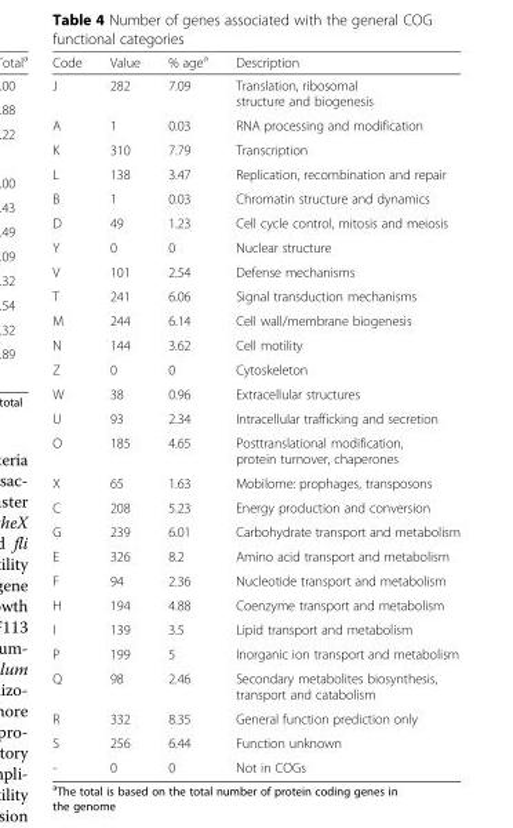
<table><thead><tr><td>Code</td><td>Value</td><td>% age<sup>a</sup></td><td>Description</td></tr></thead><tbody><tr><td>J</td><td>282</td><td>7.09</td><td>Translation, ribosomal structure and biogenesis</td></tr><tr><td>A</td><td>1</td><td>0.03</td><td>RNA processing and modification</td></tr><tr><td>K</td><td>310</td><td>7.79</td><td>Transcription</td></tr><tr><td>L</td><td>138</td><td>3.47</td><td>Replication, recombination and repair</td></tr><tr><td>B</td><td>1</td><td>0.03</td><td>Chromatin structure and dynamics</td></tr><tr><td>D</td><td>49</td><td>1.23</td><td>Cell cycle control, mitosis and meiosis</td></tr><tr><td>Y</td><td>0</td><td>0</td><td>Nuclear structure</td></tr><tr><td>V</td><td>101</td><td>2.54</td><td>Defense mechanisms</td></tr><tr><td>T</td><td>241</td><td>6.06</td><td>Signal transduction mechanisms</td></tr><tr><td>M</td><td>244</td><td>6.14</td><td>Cell wall/membrane biogenesis</td></tr><tr><td>N</td><td>144</td><td>3.62</td><td>Cell motility</td></tr><tr><td>Z</td><td>0</td><td>0</td><td>Cytoskeleton</td></tr><tr><td>W</td><td>38</td><td>0.96</td><td>Extracellular structures</td></tr><tr><td>U</td><td>93</td><td>2.34</td><td>Intracellular trafficking and secretion</td></tr><tr><td>O</td><td>185</td><td>4.65</td><td>Posttranslational modification, protein turnover, chaperones</td></tr><tr><td>X</td><td>65</td><td>1.63</td><td>Mobilome: prophages, transposons</td></tr><tr><td>C</td><td>208</td><td>5.23</td><td>Energy production and conversion</td></tr><tr><td>G</td><td>239</td><td>6.01</td><td>Carbohydrate transport and metabolism</td></tr><tr><td>E</td><td>326</td><td>8.2</td><td>Amino acid transport and metabolism</td></tr><tr><td>F</td><td>94</td><td>2.36</td><td>Nucleotide transport and metabolism</td></tr><tr><td>H</td><td>194</td><td>4.88</td><td>Coenzyme transport and metabolism</td></tr><tr><td>I</td><td>139</td><td>3.5</td><td>Lipid transport and metabolism</td></tr><tr><td>P</td><td>199</td><td>5</td><td>Inorganic ion transport and metabolism</td></tr><tr><td>Q</td><td>98</td><td>2.46</td><td>Secondary metabolites biosynthesis, transport and catabolism</td></tr><tr><td>R</td><td>332</td><td>8.35</td><td>General function prediction only</td></tr><tr><td>S</td><td>256</td><td>6.44</td><td>Function unknown</td></tr><tr><td>-</td><td>0</td><td>0</td><td>Not in COGs</td></tr></tbody></table>